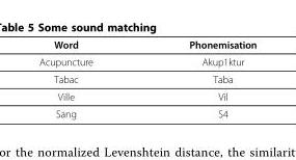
<table><thead><tr><td>Word</td><td>Phonemisation</td></tr></thead><tbody><tr><td>Acupuncture</td><td>Akup1ktur</td></tr><tr><td>Tabac</td><td>Taba</td></tr><tr><td>Ville</td><td>Vil</td></tr><tr><td>Sang</td><td>S4</td></tr></tbody></table>